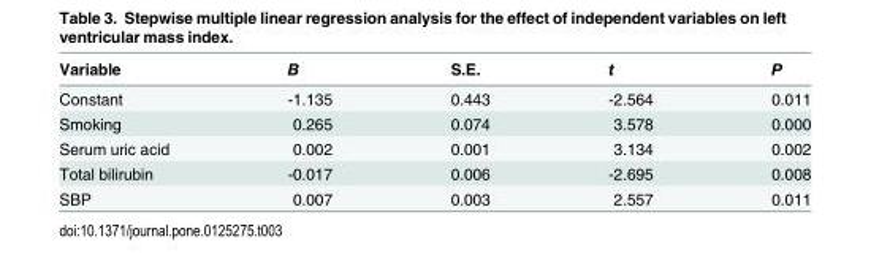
<table><thead><tr><td>Variable</td><td>B</td><td>S.E.</td><td>t</td><td>P</td></tr></thead><tbody><tr><td>Constant</td><td>-1.135</td><td>0.443</td><td>-2.564</td><td>0.011</td></tr><tr><td>Smoking</td><td>0.265</td><td>0.074</td><td>3.578</td><td>0.000</td></tr><tr><td>Serum uric acid</td><td>0.002</td><td>0.001</td><td>3.134</td><td>0.002</td></tr><tr><td>Total bilirubin</td><td>-0.017</td><td>0.006</td><td>-2.695</td><td>0.008</td></tr><tr><td>SBP</td><td>0.007</td><td>0.003</td><td>2.557</td><td>0.011</td></tr></tbody></table>